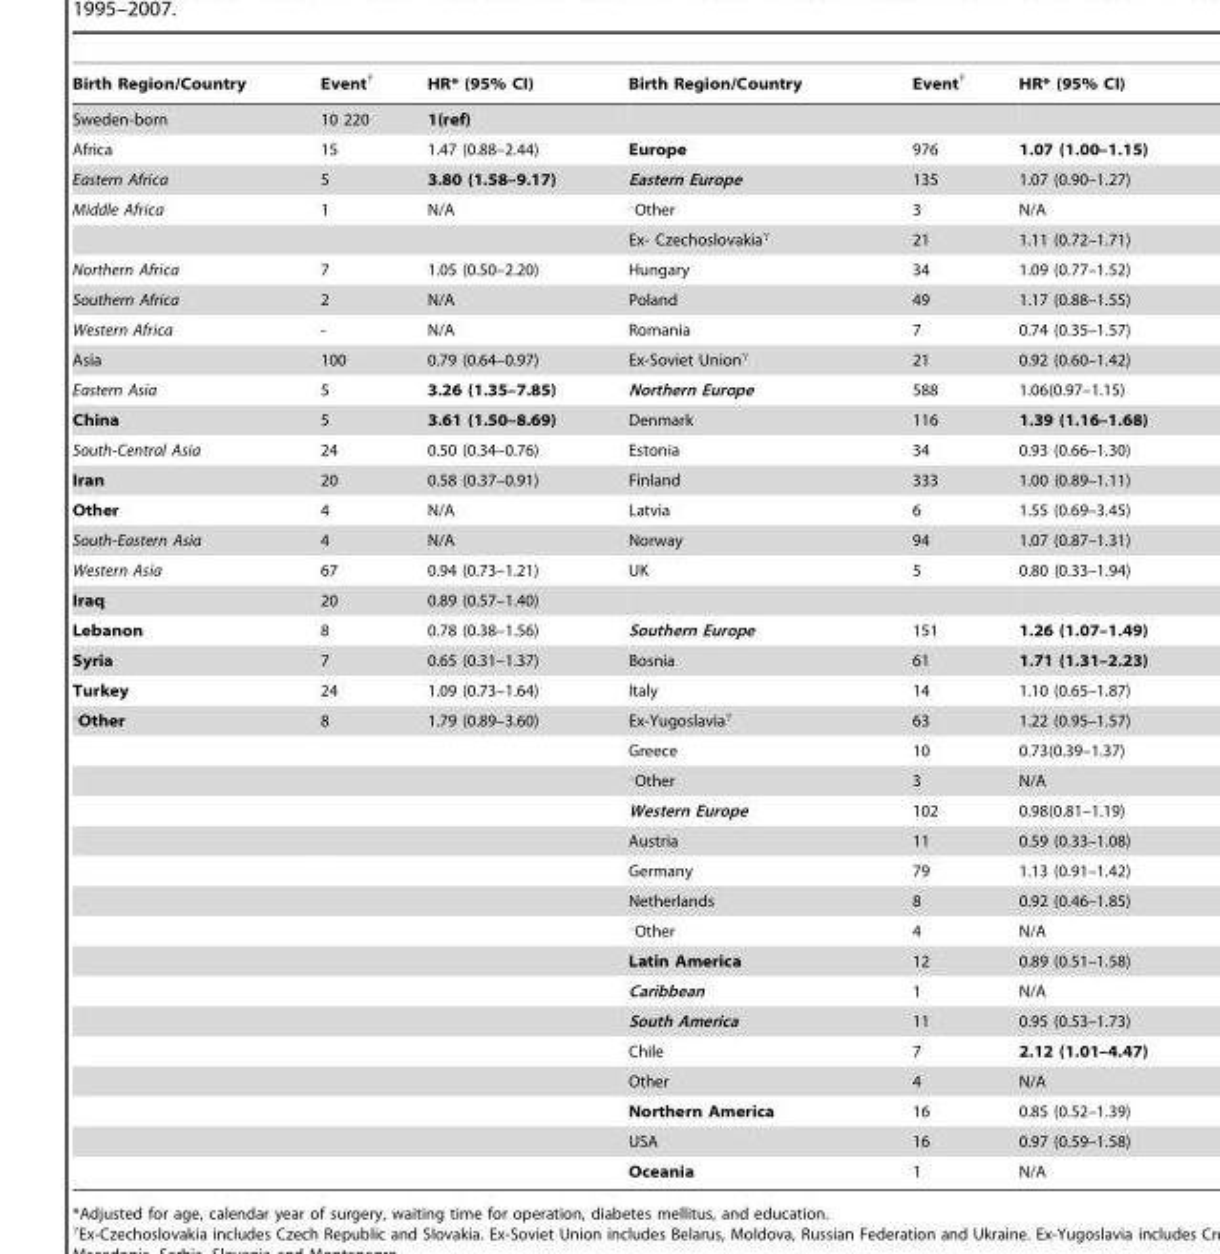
<table><thead><tr><td>Birth Region/Country</td><td>Event†</td><td>HR* (95% CI)</td><td>Birth Region/Country</td><td>Event†</td><td>HR* (95% CI)</td></tr></thead><tbody><tr><td>Sweden-born</td><td>10 220</td><td>1(ref)</td><td></td><td></td><td></td></tr><tr><td>Africa</td><td>15</td><td>1.47 (0.88–2.44)</td><td>Europe</td><td>976</td><td>1.07 (1.00–1.15)</td></tr><tr><td>Eastern Africa</td><td>5</td><td>3.80 (1.58–9.17)</td><td>Eastern Europe</td><td>135</td><td>1.07 (0.90–1.27)</td></tr><tr><td rowspan="2">Middle Africa</td><td>1</td><td>N/A</td><td>‘Other</td><td>3</td><td>N/A</td></tr><tr><td></td><td></td><td>Ex- Czechoslovakiaγ</td><td>21</td><td>1.11 (0.72–1.71)</td></tr><tr><td>Northern Africa</td><td>7</td><td>1.05 (0.50–2.20)</td><td>Hungary</td><td>34</td><td>1.09 (0.77–1.52)</td></tr><tr><td>Southern Africa</td><td>2</td><td>N/A</td><td>Poland</td><td>49</td><td>1.17 (0.88–1.55)</td></tr><tr><td>Western Africa</td><td>-</td><td>N/A</td><td>Romania</td><td>7</td><td>0.74 (0.35–1.57)</td></tr><tr><td>Asia</td><td>100</td><td>0.79 (0.64–0.97)</td><td>Ex-Soviet Unionγ</td><td>21</td><td>0.92 (0.60–1.42)</td></tr><tr><td>Eastern Asia</td><td>5</td><td>3.26 (1.35–7.85)</td><td>Northern Europe</td><td>588</td><td>1.06(0.97–1.15)</td></tr><tr><td>China</td><td>5</td><td>3.61 (1.50–8.69)</td><td>Denmark</td><td>116</td><td>1.39 (1.16–1.68)</td></tr><tr><td>South-Central Asia</td><td>24</td><td>0.50 (0.34–0.76)</td><td>Estonia</td><td>34</td><td>0.93 (0.66–1.30)</td></tr><tr><td>Iran</td><td>20</td><td>0.58 (0.37–0.91)</td><td>Finland</td><td>333</td><td>1.00 (0.89–1.11)</td></tr><tr><td>Other</td><td>4</td><td>N/A</td><td>Latvia</td><td>6</td><td>1.55 (0.69–3.45)</td></tr><tr><td>South-Eastern Asia</td><td>4</td><td>N/A</td><td>Norway</td><td>94</td><td>1.07 (0.87–1.31)</td></tr><tr><td>Western Asia</td><td>67</td><td>0.94 (0.73–1.21)</td><td>UK</td><td>5</td><td>0.80 (0.33–1.94)</td></tr><tr><td>Iraq</td><td>20</td><td>0.89 (0.57–1.40)</td><td></td><td></td><td></td></tr><tr><td>Lebanon</td><td>8</td><td>0.78 (0.38–1.56)</td><td>Southern Europe</td><td>151</td><td>1.26 (1.07–1.49)</td></tr><tr><td>Syria</td><td>7</td><td>0.65 (0.31–1.37)</td><td>Bosnia</td><td>61</td><td>1.71 (1.31–2.23)</td></tr><tr><td>Turkey</td><td>24</td><td>1.09 (0.73–1.64)</td><td>Italy</td><td>14</td><td>1.10 (0.65–1.87)</td></tr><tr><td rowspan="16">‘Other</td><td>8</td><td>1.79 (0.89–3.60)</td><td>Ex-Yugoslaviaγ</td><td>63</td><td>1.22 (0.95–1.57)</td></tr><tr><td></td><td></td><td>Greece</td><td>10</td><td>0.73(0.39–1.37)</td></tr><tr><td></td><td></td><td>‘Other</td><td>3</td><td>N/A</td></tr><tr><td></td><td></td><td>Western Europe</td><td>102</td><td>0.98(0.81–1.19)</td></tr><tr><td></td><td></td><td>Austria</td><td>11</td><td>0.59 (0.33–1.08)</td></tr><tr><td></td><td></td><td>Germany</td><td>79</td><td>1.13 (0.91–1.42)</td></tr><tr><td></td><td></td><td>Netherlands</td><td>8</td><td>0.92 (0.46–1.85)</td></tr><tr><td></td><td></td><td>‘Other</td><td>4</td><td>N/A</td></tr><tr><td></td><td></td><td>Latin America</td><td>12</td><td>0.89 (0.51–1.58)</td></tr><tr><td></td><td></td><td>Caribbean</td><td>1</td><td>N/A</td></tr><tr><td></td><td></td><td>South America</td><td>11</td><td>0.95 (0.53–1.73)</td></tr><tr><td></td><td></td><td>Chile</td><td>7</td><td>2.12 (1.01–4.47)</td></tr><tr><td></td><td></td><td>Other</td><td>4</td><td>N/A</td></tr><tr><td></td><td></td><td>Northern America</td><td>16</td><td>0.85 (0.52–1.39)</td></tr><tr><td></td><td></td><td>USA</td><td>16</td><td>0.97 (0.59–1.58)</td></tr><tr><td></td><td></td><td>Oceania</td><td>1</td><td>N/A</td></tr></tbody></table>